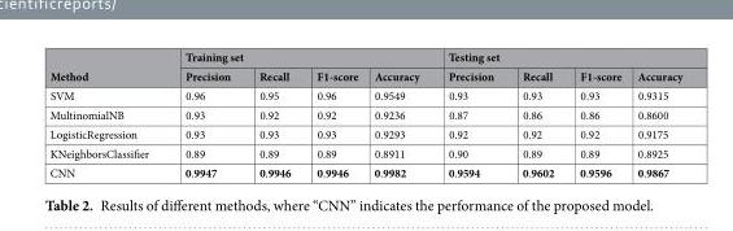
<table><thead><tr><td rowspan="2">Method</td><td colspan="4">Training set</td><td colspan="4">Testing set</td></tr><tr><td>Precision</td><td>Recall</td><td>F1-score</td><td>Accuracy</td><td>Precision</td><td>Recall</td><td>F1-score</td><td>Accuracy</td></tr></thead><tbody><tr><td>SVM</td><td>0.96</td><td>0.95</td><td>0.96</td><td>0.9549</td><td>0.93</td><td>0.93</td><td>0.93</td><td>0.9315</td></tr><tr><td>MultinomialNB</td><td>0.93</td><td>0.92</td><td>0.92</td><td>0.9236</td><td>0.87</td><td>0.86</td><td>0.86</td><td>0.8600</td></tr><tr><td>LogisticRegression</td><td>0.93</td><td>0.93</td><td>0.93</td><td>0.9293</td><td>0.92</td><td>0.92</td><td>0.92</td><td>0.9175</td></tr><tr><td>KNeighborsClassifier</td><td>0.89</td><td>0.89</td><td>0.89</td><td>0.8911</td><td>0.90</td><td>0.89</td><td>0.89</td><td>0.8925</td></tr><tr><td>CNN</td><td>0.9947</td><td>0.9946</td><td>0.9946</td><td>0.9982</td><td>0.9594</td><td>0.9602</td><td>0.9596</td><td>0.9867</td></tr></tbody></table>